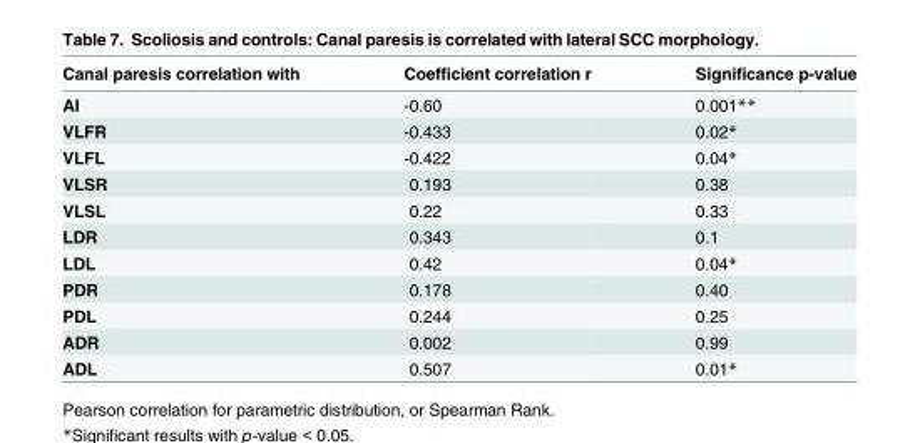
<table><thead><tr><td>Canal paresis correlation with</td><td>Coefficient correlation r</td><td>Significance p-value</td></tr></thead><tbody><tr><td>AI</td><td>-0.60</td><td>0.001**</td></tr><tr><td>VLFR</td><td>-0.433</td><td>0.02*</td></tr><tr><td>VLFL</td><td>-0.422</td><td>0.04*</td></tr><tr><td>VLSR</td><td>0.193</td><td>0.38</td></tr><tr><td>VLSL</td><td>0.22</td><td>0.33</td></tr><tr><td>LDR</td><td>0.343</td><td>0.1</td></tr><tr><td>LDL</td><td>0.42</td><td>0.04*</td></tr><tr><td>PDR</td><td>0.178</td><td>0.40</td></tr><tr><td>PDL</td><td>0.244</td><td>0.25</td></tr><tr><td>ADR</td><td>0.002</td><td>0.99</td></tr><tr><td>ADL</td><td>0.507</td><td>0.01*</td></tr></tbody></table>